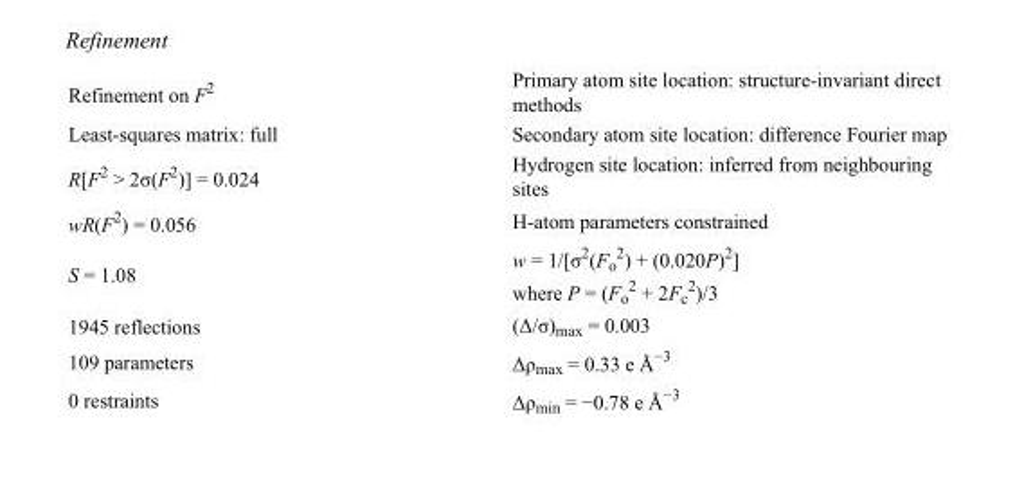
<table><tbody><tr><td>Refinement on F<sup>2</sup></td><td>Primary atom site location: structure-invariant direct methods</td></tr><tr><td>Least-squares matrix: full</td><td>Secondary atom site location: difference Fourier map</td></tr><tr><td>R[F<sup>2</sup> &gt; 2σ(F<sup>2</sup>)] = 0.024</td><td>Hydrogen site location: inferred from neighbouring sites</td></tr><tr><td>wR(F<sup>2</sup>) = 0.056</td><td>H-atom parameters constrained</td></tr><tr><td>S = 1.08</td><td>w = 1/[σ<sup>2</sup>(F<sub>o</sub> <sup>2</sup>) + (0.020P)<sup>2</sup>] where P = (F<sub>o</sub> <sup>2</sup> + 2F<sub>c</sub> <sup>2</sup>)/3</td></tr><tr><td>1945 reflections</td><td>(Δ/σ)<sub>max</sub> = 0.003</td></tr><tr><td>109 parameters</td><td>Δρ<sub>max</sub> = 0.33 e Å<sup>−3</sup></td></tr><tr><td>0 restraints</td><td>Δρ<sub>min</sub> = −0.78 e Å<sup>−3</sup></td></tr></tbody></table>